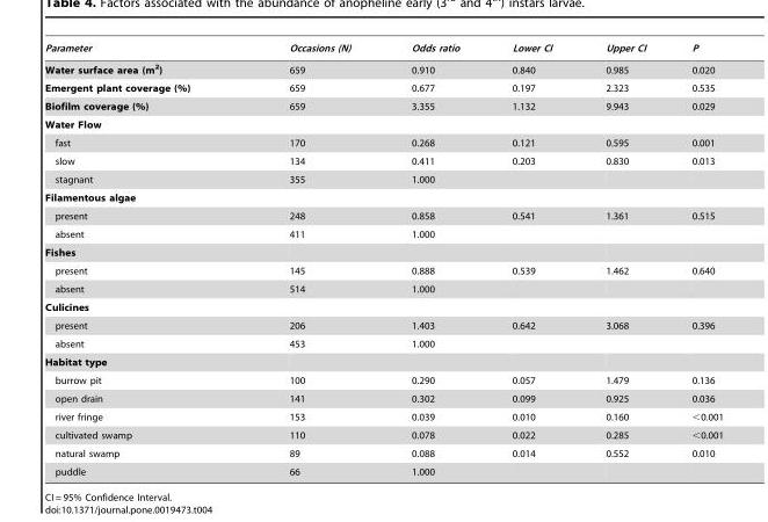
<table><thead><tr><td>Parameter</td><td>Occasions (N)</td><td>Odds ratio</td><td>Lower CI</td><td>Upper CI</td><td>P</td></tr></thead><tbody><tr><td>Water surface area (m<sup>2</sup>)</td><td>659</td><td>0.910</td><td>0.840</td><td>0.985</td><td>0.020</td></tr><tr><td>Emergent plant coverage (%)</td><td>659</td><td>0.677</td><td>0.197</td><td>2.323</td><td>0.535</td></tr><tr><td>Biofilm coverage (%)</td><td>659</td><td>3.355</td><td>1.132</td><td>9.943</td><td>0.029</td></tr><tr><td colspan="6">Water Flow</td></tr><tr><td>fast</td><td>170</td><td>0.268</td><td>0.121</td><td>0.595</td><td>0.001</td></tr><tr><td>slow</td><td>134</td><td>0.411</td><td>0.203</td><td>0.830</td><td>0.013</td></tr><tr><td>stagnant</td><td>355</td><td>1.000</td><td></td><td></td><td></td></tr><tr><td colspan="6">Filamentous algae</td></tr><tr><td>present</td><td>248</td><td>0.858</td><td>0.541</td><td>1.361</td><td>0.515</td></tr><tr><td>absent</td><td>411</td><td>1.000</td><td></td><td></td><td></td></tr><tr><td colspan="6">Fishes</td></tr><tr><td>present</td><td>145</td><td>0.888</td><td>0.539</td><td>1.462</td><td>0.640</td></tr><tr><td>absent</td><td>514</td><td>1.000</td><td></td><td></td><td></td></tr><tr><td colspan="6">Culicines</td></tr><tr><td>present</td><td>206</td><td>1.403</td><td>0.642</td><td>3.068</td><td>0.396</td></tr><tr><td>absent</td><td>453</td><td>1.000</td><td></td><td></td><td></td></tr><tr><td colspan="6">Habitat type</td></tr><tr><td>burrow pit</td><td>100</td><td>0.290</td><td>0.057</td><td>1.479</td><td>0.136</td></tr><tr><td>open drain</td><td>141</td><td>0.302</td><td>0.099</td><td>0.925</td><td>0.036</td></tr><tr><td>river fringe</td><td>153</td><td>0.039</td><td>0.010</td><td>0.160</td><td>&lt;0.001</td></tr><tr><td>cultivated swamp</td><td>110</td><td>0.078</td><td>0.022</td><td>0.285</td><td>&lt;0.001</td></tr><tr><td>natural swamp</td><td>89</td><td>0.088</td><td>0.014</td><td>0.552</td><td>0.010</td></tr><tr><td>puddle</td><td>66</td><td>1.000</td><td></td><td></td><td></td></tr></tbody></table>